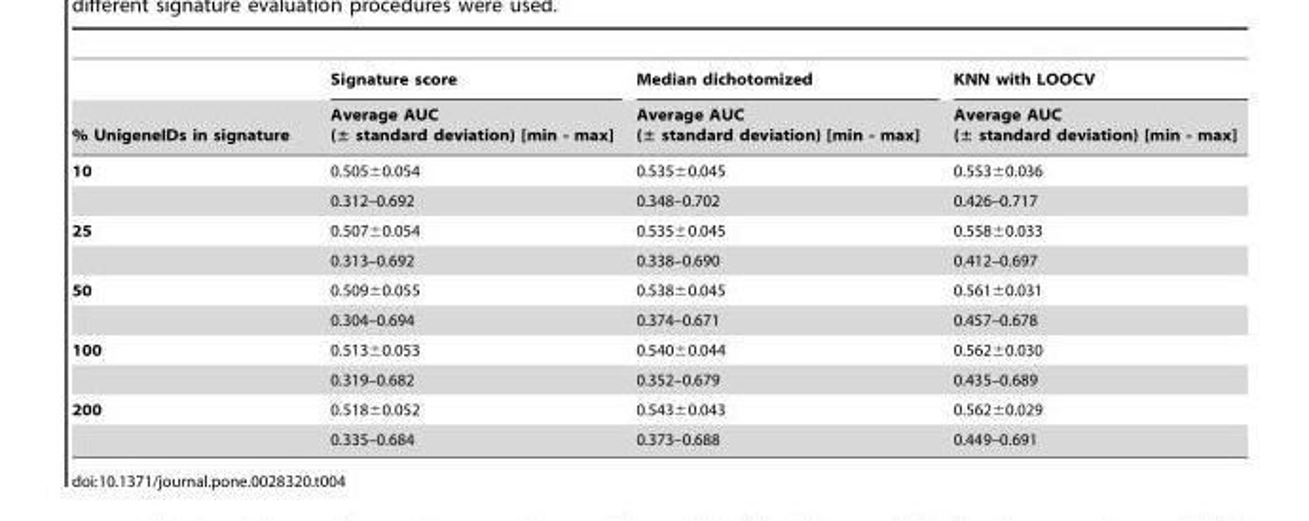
<table><thead><tr><td rowspan="2">% UnigeneIDs in signature</td><td rowspan="2">Signature score Average AUC (± standard deviation) [min - max]</td><td rowspan="2">Median dichotomized Average AUC (± standard deviation) [min - max]</td><td rowspan="2">KNN with LOOCV Average AUC (± standard deviation) [min - max]</td></tr><tr></tr></thead><tbody><tr><td rowspan="2">10</td><td>0.505±0.054</td><td>0.535±0.045</td><td>0.553±0.036</td></tr><tr><td>0.312–0.692</td><td>0.348–0.702</td><td>0.426–0.717</td></tr><tr><td rowspan="2">25</td><td>0.507±0.054</td><td>0.535±0.045</td><td>0.558±0.033</td></tr><tr><td>0.313–0.692</td><td>0.338–0.690</td><td>0.412–0.697</td></tr><tr><td rowspan="2">50</td><td>0.509±0.055</td><td>0.538±0.045</td><td>0.561±0.031</td></tr><tr><td>0.304–0.694</td><td>0.374–0.671</td><td>0.457–0.678</td></tr><tr><td rowspan="2">100</td><td>0.513±0.053</td><td>0.540±0.044</td><td>0.562±0.030</td></tr><tr><td>0.319–0.682</td><td>0.352–0.679</td><td>0.435–0.689</td></tr><tr><td rowspan="2">200</td><td>0.518±0.052</td><td>0.543±0.043</td><td>0.562±0.029</td></tr><tr><td>0.335–0.684</td><td>0.373–0.688</td><td>0.449–0.691</td></tr></tbody></table>